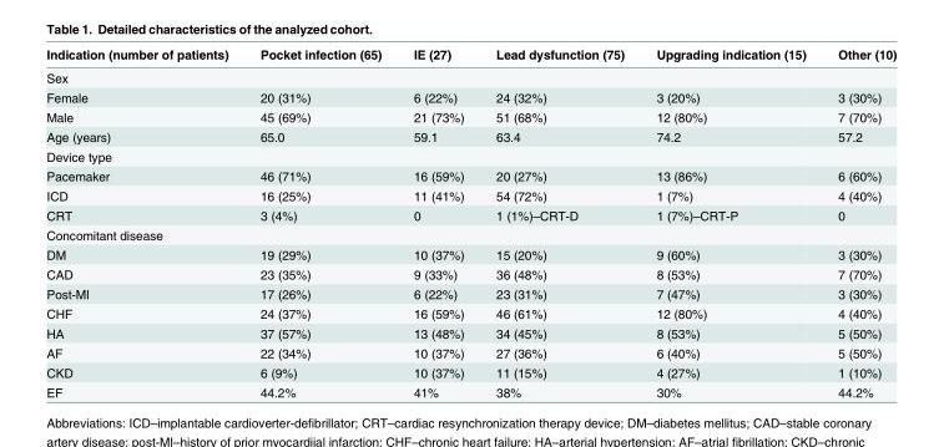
<table><thead><tr><td>Indication (number of patients)</td><td>Pocket infection (65)</td><td>IE (27)</td><td>Lead dysfunction (75)</td><td>Upgrading indication (15)</td><td>Other (10)</td></tr></thead><tbody><tr><td colspan="6">Sex</td></tr><tr><td>Female</td><td>20 (31%)</td><td>6 (22%)</td><td>24 (32%)</td><td>3 (20%)</td><td>3 (30%)</td></tr><tr><td>Male</td><td>45 (69%)</td><td>21 (73%)</td><td>51 (68%)</td><td>12 (80%)</td><td>7 (70%)</td></tr><tr><td>Age (years)</td><td>65.0</td><td>59.1</td><td>63.4</td><td>74.2</td><td>57.2</td></tr><tr><td colspan="6">Device type</td></tr><tr><td>Pacemaker</td><td>46 (71%)</td><td>16 (59%)</td><td>20 (27%)</td><td>13 (86%)</td><td>6 (60%)</td></tr><tr><td>ICD</td><td>16 (25%)</td><td>11 (41%)</td><td>54 (72%)</td><td>1 (7%)</td><td>4 (40%)</td></tr><tr><td>CRT</td><td>3 (4%)</td><td>0</td><td>1 (1%)–CRT-D</td><td>1 (7%)–CRT-P</td><td>0</td></tr><tr><td colspan="6">Concomitant disease</td></tr><tr><td>DM</td><td>19 (29%)</td><td>10 (37%)</td><td>15 (20%)</td><td>9 (60%)</td><td>3 (30%)</td></tr><tr><td>CAD</td><td>23 (35%)</td><td>9 (33%)</td><td>36 (48%)</td><td>8 (53%)</td><td>7 (70%)</td></tr><tr><td>Post-MI</td><td>17 (26%)</td><td>6 (22%)</td><td>23 (31%)</td><td>7 (47%)</td><td>3 (30%)</td></tr><tr><td>CHF</td><td>24 (37%)</td><td>16 (59%)</td><td>46 (61%)</td><td>12 (80%)</td><td>4 (40%)</td></tr><tr><td>HA</td><td>37 (57%)</td><td>13 (48%)</td><td>34 (45%)</td><td>8 (53%)</td><td>5 (50%)</td></tr><tr><td>AF</td><td>22 (34%)</td><td>10 (37%)</td><td>27 (36%)</td><td>6 (40%)</td><td>5 (50%)</td></tr><tr><td>CKD</td><td>6 (9%)</td><td>10 (37%)</td><td>11 (15%)</td><td>4 (27%)</td><td>1 (10%)</td></tr><tr><td>EF</td><td>44.2%</td><td>41%</td><td>38%</td><td>30%</td><td>44.2%</td></tr></tbody></table>